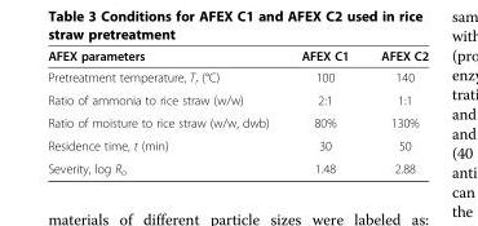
<table><thead><tr><td>AFEX parameters</td><td>AFEX C1</td><td>AFEX C2</td></tr></thead><tbody><tr><td>Pretreatment temperature, T<sub>r</sub> (°C)</td><td>100</td><td>140</td></tr><tr><td>Ratio of ammonia to rice straw (w/w)</td><td>2:1</td><td>1:1</td></tr><tr><td>Ratio of moisture to rice straw (w/w, dwb)</td><td>80%</td><td>130%</td></tr><tr><td>Residence time, t (min)</td><td>30</td><td>50</td></tr><tr><td>Severity, log R<sub>o</sub></td><td>1.48</td><td>2.88</td></tr></tbody></table>